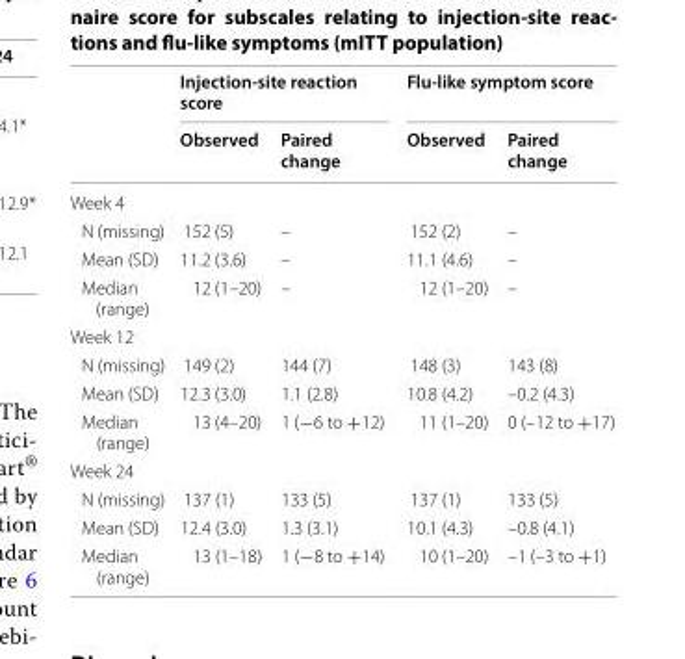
<table><thead><tr><td rowspan="2"></td><td colspan="2">Injection-site reaction score</td><td colspan="2">Flu-like symptom score</td></tr><tr><td>Observed</td><td>Paired change</td><td>Observed</td><td>Paired change</td></tr></thead><tbody><tr><td colspan="5">Week 4</td></tr><tr><td>N (missing)</td><td>152 (5)</td><td>–</td><td>152 (2)</td><td>–</td></tr><tr><td>Mean (SD)</td><td>11.2 (3.6)</td><td>–</td><td>11.1 (4.6)</td><td>–</td></tr><tr><td>Median (range)</td><td>12 (1–20)</td><td>–</td><td>12 (1–20)</td><td>–</td></tr><tr><td colspan="5">Week 12</td></tr><tr><td>N (missing)</td><td>149 (2)</td><td>144 (7)</td><td>148 (3)</td><td>143 (8)</td></tr><tr><td>Mean (SD)</td><td>12.3 (3.0)</td><td>1.1 (2.8)</td><td>10.8 (4.2)</td><td>–0.2 (4.3)</td></tr><tr><td>Median (range)</td><td>13 (4–20)</td><td>1 (−6 to +12)</td><td>11 (1–20)</td><td>0 (–12 to +17)</td></tr><tr><td colspan="5">Week 24</td></tr><tr><td>N (missing)</td><td>137 (1)</td><td>133 (5)</td><td>137 (1)</td><td>133 (5)</td></tr><tr><td>Mean (SD)</td><td>12.4 (3.0)</td><td>1.3 (3.1)</td><td>10.1 (4.3)</td><td>–0.8 (4.1)</td></tr><tr><td>Median (range)</td><td>13 (1–18)</td><td>1 (−8 to +14)</td><td>10 (1–20)</td><td>–1 (–3 to +1)</td></tr></tbody></table>